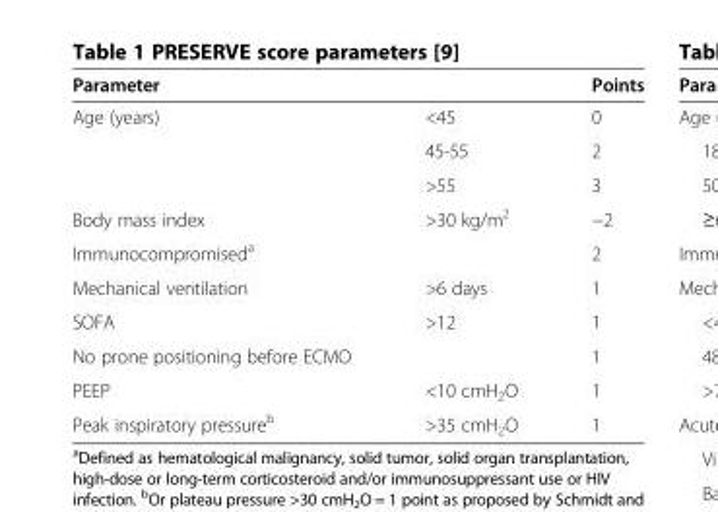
<table><thead><tr><td>Parameter</td><td></td><td>Points</td></tr></thead><tbody><tr><td rowspan="3">Age (years)</td><td>&lt;45</td><td>0</td></tr><tr><td>45-55</td><td>2</td></tr><tr><td>&gt;55</td><td>3</td></tr><tr><td>Body mass index</td><td>&gt;30 kg/m<sup>2</sup></td><td>−2</td></tr><tr><td>Immunocompromised<sup>a</sup></td><td></td><td>2</td></tr><tr><td>Mechanical ventilation</td><td>&gt;6 days</td><td>1</td></tr><tr><td>SOFA</td><td>&gt;12</td><td>1</td></tr><tr><td>No prone positioning before ECMO</td><td></td><td>1</td></tr><tr><td>PEEP</td><td>&lt;10 cmH<sub>2</sub>O</td><td>1</td></tr><tr><td>Peak inspiratory pressure<sup>b</sup></td><td>&gt;35 cmH<sub>2</sub>O</td><td>1</td></tr></tbody></table>